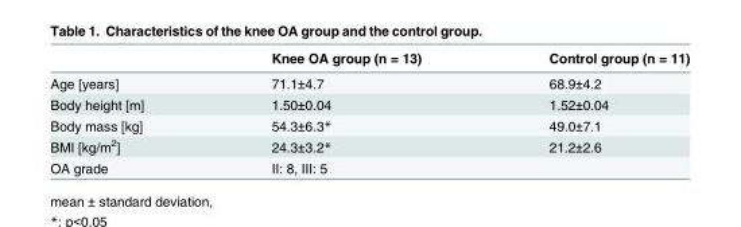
<table><thead><tr><td></td><td>Knee OA group (n = 13)</td><td>Control group (n = 11)</td></tr></thead><tbody><tr><td>Age [years]</td><td>71.1±4.7</td><td>68.9±4.2</td></tr><tr><td>Body height [m]</td><td>1.50±0.04</td><td>1.52±0.04</td></tr><tr><td>Body mass [kg]</td><td>54.3±6.3*</td><td>49.0±7.1</td></tr><tr><td>BMI [kg/m<sup>2</sup>]</td><td>24.3±3.2*</td><td>21.2±2.6</td></tr><tr><td>OA grade</td><td>II: 8, III: 5</td><td></td></tr></tbody></table>